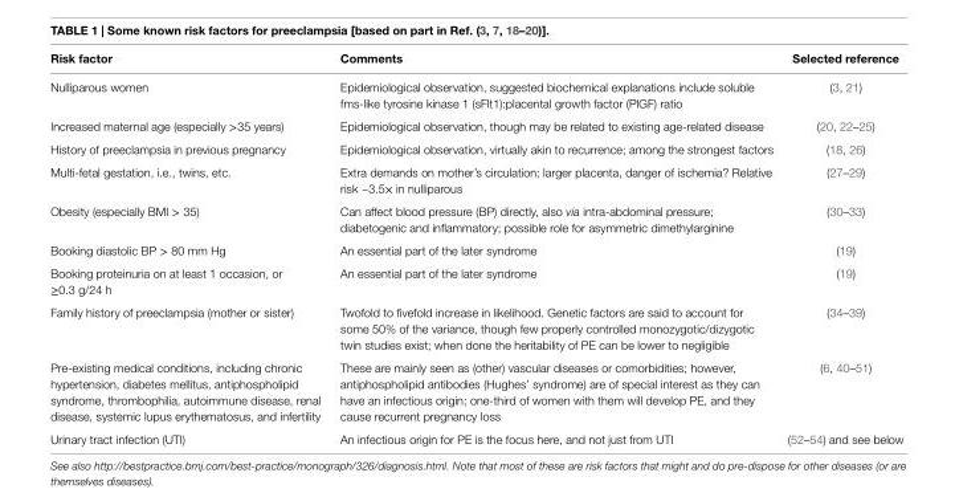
<table><thead><tr><td>Risk factor</td><td>Comments</td><td>Selected reference</td></tr></thead><tbody><tr><td>Nulliparous women</td><td>Epidemiological observation, suggested biochemical explanations include soluble fms-like tyrosine kinase 1 (sFlt1):placental growth factor (PlGF) ratio</td><td>(3, 21)</td></tr><tr><td>Increased maternal age (especially &gt;35 years)</td><td>Epidemiological observation, though may be related to existing age-related disease</td><td>(20, 22–25)</td></tr><tr><td>History of preeclampsia in previous pregnancy</td><td>Epidemiological observation, virtually akin to recurrence; among the strongest factors</td><td>(18, 26)</td></tr><tr><td>Multi-fetal gestation, i.e., twins, etc.</td><td>Extra demands on mother’s circulation; larger placenta, danger of ischemia? Relative risk ~3.5× in nulliparous</td><td>(27–29)</td></tr><tr><td>Obesity (especially BMI &gt; 35)</td><td>Can affect blood pressure (BP) directly, also via intra-abdominal pressure; diabetogenic and inflammatory; possible role for asymmetric dimethylarginine</td><td>(30–33)</td></tr><tr><td>Booking diastolic BP &gt; 80 mm Hg</td><td>An essential part of the later syndrome</td><td>(19)</td></tr><tr><td>Booking proteinuria on at least 1 occasion, or ≥0.3 g/24 h</td><td>An essential part of the later syndrome</td><td>(19)</td></tr><tr><td>Family history of preeclampsia (mother or sister)</td><td>Twofold to fivefold increase in likelihood. Genetic factors are said to account for some 50% of the variance, though few properly controlled monozygotic/dizygotic twin studies exist; when done the heritability of PE can be lower to negligible</td><td>(34–39)</td></tr><tr><td>Pre-existing medical conditions, including chronic hypertension, diabetes mellitus, antiphospholipid syndrome, thrombophilia, autoimmune disease, renal disease, systemic lupus erythematosus, and infertility</td><td>These are mainly seen as (other) vascular diseases or comorbidities; however, antiphospholipid antibodies (Hughes’ syndrome) are of special interest as they can have an infectious origin; one-third of women with them will develop PE, and they cause recurrent pregnancy loss</td><td>(6, 40–51)</td></tr><tr><td>Urinary tract infection (UTI)</td><td>An infectious origin for PE is the focus here, and not just from UTI</td><td>(52–54) and see below</td></tr></tbody></table>